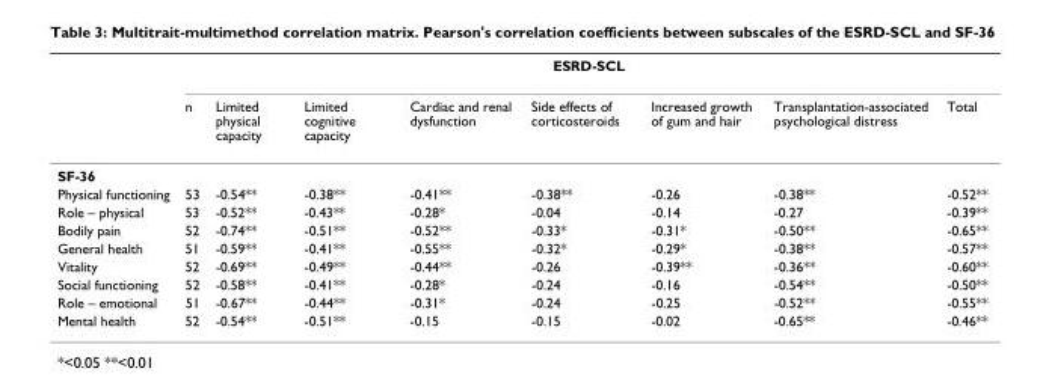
<table><thead><tr><td rowspan="2"></td><td colspan="8">ESRD-SCL</td></tr><tr><td>n</td><td>Limited physical capacity</td><td>Limited cognitive capacity</td><td>Cardiac and renal dysfunction</td><td>Side effects of corticosteroids</td><td>Increased growth of gum and hair</td><td>Transplantation-associated psychological distress</td><td>Total</td></tr></thead><tbody><tr><td colspan="9">SF-36</td></tr><tr><td>Physical functioning</td><td>53</td><td>-0.54**</td><td>-0.38**</td><td>-0.41**</td><td>-0.38**</td><td>-0.26</td><td>-0.38**</td><td>-0.52**</td></tr><tr><td>Role – physical</td><td>53</td><td>-0.52**</td><td>-0.43**</td><td>-0.28*</td><td>-0.04</td><td>-0.14</td><td>-0.27</td><td>-0.39**</td></tr><tr><td>Bodily pain</td><td>52</td><td>-0.74**</td><td>-0.51**</td><td>-0.52**</td><td>-0.33*</td><td>-0.31*</td><td>-0.50**</td><td>-0.65**</td></tr><tr><td>General health</td><td>51</td><td>-0.59**</td><td>-0.41**</td><td>-0.55**</td><td>-0.32*</td><td>-0.29*</td><td>-0.38**</td><td>-0.57**</td></tr><tr><td>Vitality</td><td>52</td><td>-0.69**</td><td>-0.49**</td><td>-0.44**</td><td>-0.26</td><td>-0.39**</td><td>-0.36**</td><td>-0.60**</td></tr><tr><td>Social functioning</td><td>52</td><td>-0.58**</td><td>-0.41**</td><td>-0.28*</td><td>-0.24</td><td>-0.16</td><td>-0.54**</td><td>-0.50**</td></tr><tr><td>Role – emotional</td><td>51</td><td>-0.67**</td><td>-0.44**</td><td>-0.31*</td><td>-0.24</td><td>-0.25</td><td>-0.52**</td><td>-0.55**</td></tr><tr><td>Mental health</td><td>52</td><td>-0.54**</td><td>-0.51**</td><td>-0.15</td><td>-0.15</td><td>-0.02</td><td>-0.65**</td><td>-0.46**</td></tr></tbody></table>